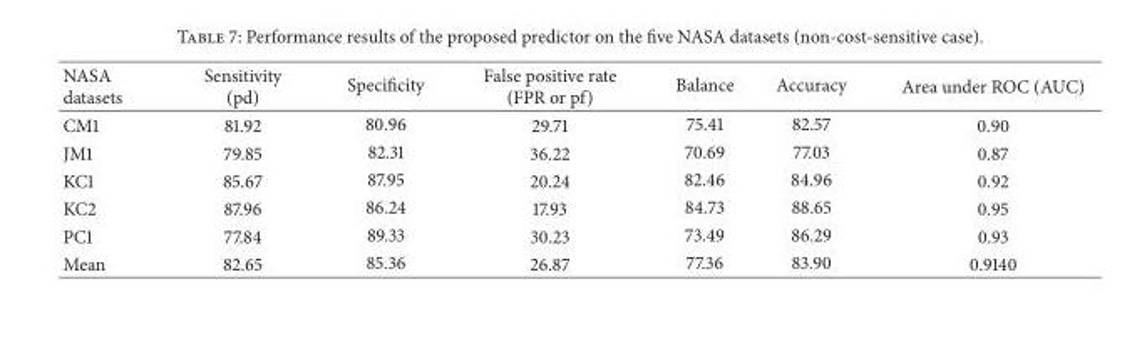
<table><thead><tr><td>NASA datasets</td><td>Sensitivity (pd)</td><td>Specificity</td><td>False positive rate (FPR or pf)</td><td>Balance</td><td>Accuracy</td><td>Area under ROC (AUC)</td></tr></thead><tbody><tr><td>CM1</td><td>81.92</td><td>80.96</td><td>29.71</td><td>75.41</td><td>82.57</td><td>0.90</td></tr><tr><td>JM1</td><td>79.85</td><td>82.31</td><td>36.22</td><td>70.69</td><td>77.03</td><td>0.87</td></tr><tr><td>KC1</td><td>85.67</td><td>87.95</td><td>20.24</td><td>82.46</td><td>84.96</td><td>0.92</td></tr><tr><td>KC2</td><td>87.96</td><td>86.24</td><td>17.93</td><td>84.73</td><td>88.65</td><td>0.95</td></tr><tr><td>PC1</td><td>77.84</td><td>89.33</td><td>30.23</td><td>73.49</td><td>86.29</td><td>0.93</td></tr><tr><td>Mean</td><td>82.65</td><td>85.36</td><td>26.87</td><td>77.36</td><td>83.90</td><td>0.9140</td></tr></tbody></table>